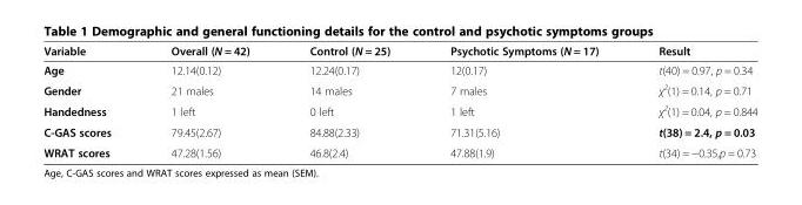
<table><thead><tr><td>Variable</td><td>Overall (N = 42)</td><td>Control (N = 25)</td><td>Psychotic Symptoms (N = 17)</td><td>Result</td></tr></thead><tbody><tr><td>Age</td><td>12.14(0.12)</td><td>12.24(0.17)</td><td>12(0.17)</td><td>t(40) = 0.97, p = 0.34</td></tr><tr><td>Gender</td><td>21 males</td><td>14 males</td><td>7 males</td><td>χ<sup>2</sup>(1) = 0.14, p = 0.71</td></tr><tr><td>Handedness</td><td>1 left</td><td>0 left</td><td>1 left</td><td>χ<sup>2</sup>(1) = 0.04, p = 0.844</td></tr><tr><td>C-GAS scores</td><td>79.45(2.67)</td><td>84.88(2.33)</td><td>71.31(5.16)</td><td>t(38) = 2.4, p = 0.03</td></tr><tr><td>WRAT scores</td><td>47.28(1.56)</td><td>46.8(2.4)</td><td>47.88(1.9)</td><td>t(34) = −0.35,p = 0.73</td></tr></tbody></table>